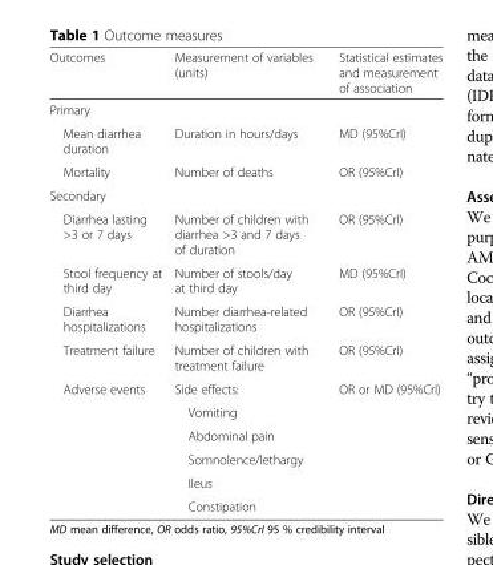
<table><thead><tr><td>Outcomes</td><td>Measurement of variables (units)</td><td>Statistical estimates and measurement of association</td></tr></thead><tbody><tr><td colspan="3">Primary</td></tr><tr><td>Mean diarrhea duration</td><td>Duration in hours/days</td><td>MD (95%CrI)</td></tr><tr><td>Mortality</td><td>Number of deaths</td><td>OR (95%CrI)</td></tr><tr><td colspan="3">Secondary</td></tr><tr><td>Diarrhea lasting &gt;3 or 7 days</td><td>Number of children with diarrhea &gt;3 and 7 days of duration</td><td>OR (95%CrI)</td></tr><tr><td>Stool frequency at third day</td><td>Number of stools/day at third day</td><td>MD (95%CrI)</td></tr><tr><td>Diarrhea hospitalizations</td><td>Number diarrhea-related hospitalizations</td><td>OR (95%CrI)</td></tr><tr><td>Treatment failure</td><td>Number of children with treatment failure</td><td>OR (95%CrI)</td></tr><tr><td rowspan="6">Adverse events</td><td>Side effects:</td><td>OR or MD (95%CrI)</td></tr><tr><td>Vomiting</td><td></td></tr><tr><td>Abdominal pain</td><td></td></tr><tr><td>Somnolence/lethargy</td><td></td></tr><tr><td>Ileus</td><td></td></tr><tr><td>Constipation</td><td></td></tr></tbody></table>